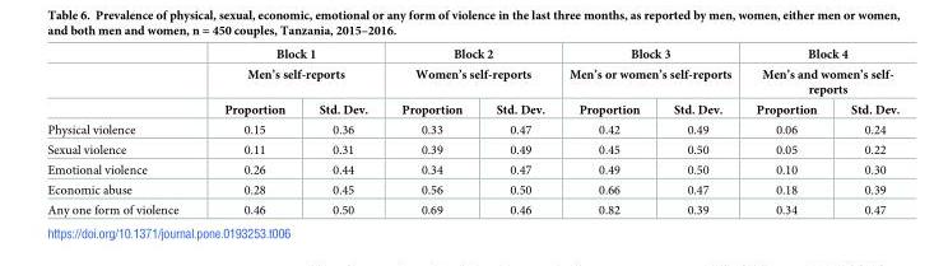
<table><thead><tr><td rowspan="3"></td><td rowspan="2" colspan="2">Block 1 Men’s self-reports</td><td rowspan="2" colspan="2">Block 2 Women’s self-reports</td><td rowspan="2" colspan="2">Block 3 Men’s or women’s self-reports</td><td rowspan="2" colspan="2">Block 4 Men’s and women’s self- reports</td></tr><tr></tr><tr><td>Proportion</td><td>Std. Dev.</td><td>Proportion</td><td>Std. Dev.</td><td>Proportion</td><td>Std. Dev.</td><td>Proportion</td><td>Std. Dev.</td></tr></thead><tbody><tr><td>Physical violence</td><td>0.15</td><td>0.36</td><td>0.33</td><td>0.47</td><td>0.42</td><td>0.49</td><td>0.06</td><td>0.24</td></tr><tr><td>Sexual violence</td><td>0.11</td><td>0.31</td><td>0.39</td><td>0.49</td><td>0.45</td><td>0.50</td><td>0.05</td><td>0.22</td></tr><tr><td>Emotional violence</td><td>0.26</td><td>0.44</td><td>0.34</td><td>0.47</td><td>0.49</td><td>0.50</td><td>0.10</td><td>0.30</td></tr><tr><td>Economic abuse</td><td>0.28</td><td>0.45</td><td>0.56</td><td>0.50</td><td>0.66</td><td>0.47</td><td>0.18</td><td>0.39</td></tr><tr><td>Any one form of violence</td><td>0.46</td><td>0.50</td><td>0.69</td><td>0.46</td><td>0.82</td><td>0.39</td><td>0.34</td><td>0.47</td></tr></tbody></table>